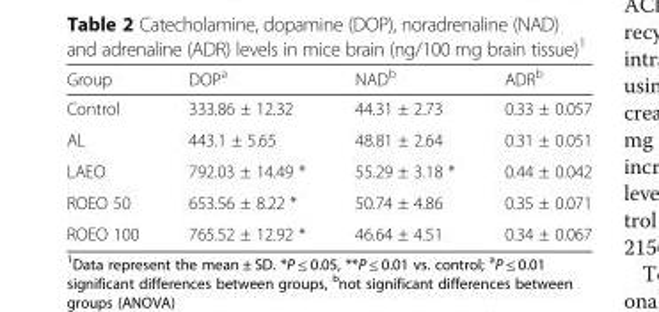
<table><thead><tr><td>Group</td><td>DOP<sup>a</sup></td><td>NAD<sup>b</sup></td><td>ADR<sup>b</sup></td></tr></thead><tbody><tr><td>Control</td><td>333.86 ± 12.32</td><td>44.31 ± 2.73</td><td>0.33 ± 0.057</td></tr><tr><td>AL</td><td>443.1 ± 5.65</td><td>48.81 ± 2.64</td><td>0.31 ± 0.051</td></tr><tr><td>LAEO</td><td>792.03 ± 14.49 *</td><td>55.29 ± 3.18 *</td><td>0.44 ± 0.042</td></tr><tr><td>ROEO 50</td><td>653.56 ± 8.22 *</td><td>50.74 ± 4.86</td><td>0.35 ± 0.071</td></tr><tr><td>ROEO 100</td><td>765.52 ± 12.92 *</td><td>46.64 ± 4.51</td><td>0.34 ± 0.067</td></tr></tbody></table>